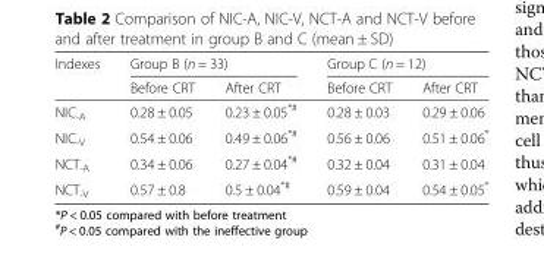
<table><thead><tr><td rowspan="2">Indexes</td><td colspan="2">Group B (n = 33)</td><td colspan="2">Group C (n = 12)</td></tr><tr><td>Before CRT</td><td>After CRT</td><td>Before CRT</td><td>After CRT</td></tr></thead><tbody><tr><td>NIC<sub>-A</sub></td><td>0.28 ± 0.05</td><td>0.23 ± 0.05<sup>*#</sup></td><td>0.28 ± 0.03</td><td>0.29 ± 0.06</td></tr><tr><td>NIC<sub>-V</sub></td><td>0.54 ± 0.06</td><td>0.49 ± 0.06<sup>*#</sup></td><td>0.56 ± 0.06</td><td>0.51 ± 0.06*</td></tr><tr><td>NCT<sub>-A</sub></td><td>0.34 ± 0.06</td><td>0.27 ± 0.04<sup>*#</sup></td><td>0.32 ± 0.04</td><td>0.31 ± 0.04</td></tr><tr><td>NCT<sub>-V</sub></td><td>0.57 ± 0.8</td><td>0.5 ± 0.04<sup>*#</sup></td><td>0.59 ± 0.04</td><td>0.54 ± 0.05*</td></tr></tbody></table>